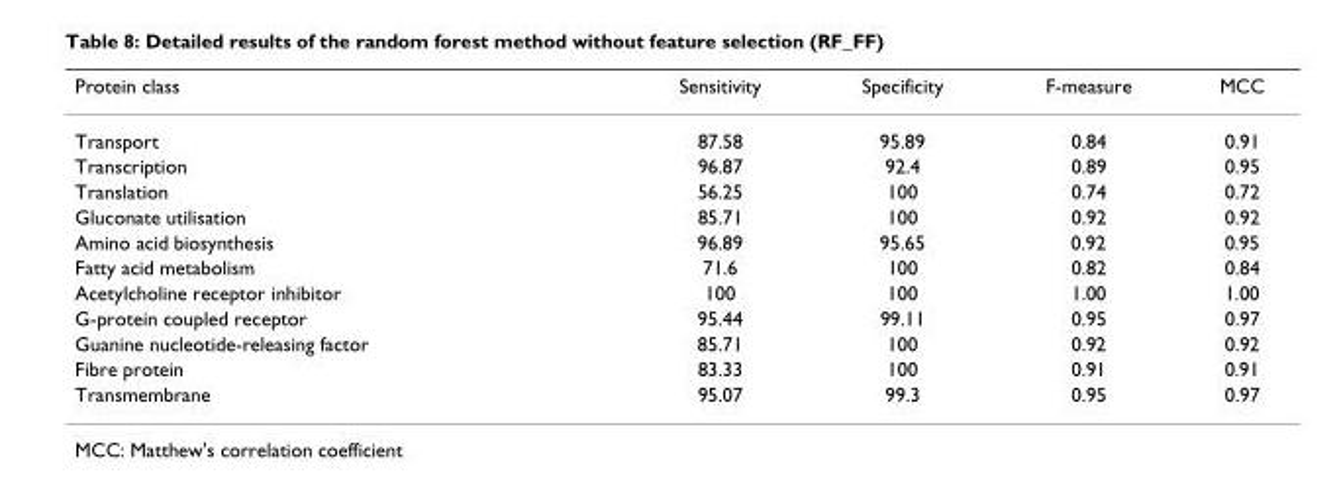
<table><thead><tr><td>Protein class</td><td>Sensitivity</td><td>Specificity</td><td>F-measure</td><td>MCC</td></tr></thead><tbody><tr><td>Transport</td><td>87.58</td><td>95.89</td><td>0.84</td><td>0.91</td></tr><tr><td>Transcription</td><td>96.87</td><td>92.4</td><td>0.89</td><td>0.95</td></tr><tr><td>Translation</td><td>56.25</td><td>100</td><td>0.74</td><td>0.72</td></tr><tr><td>Gluconate utilisation</td><td>85.71</td><td>100</td><td>0.92</td><td>0.92</td></tr><tr><td>Amino acid biosynthesis</td><td>96.89</td><td>95.65</td><td>0.92</td><td>0.95</td></tr><tr><td>Fatty acid metabolism</td><td>71.6</td><td>100</td><td>0.82</td><td>0.84</td></tr><tr><td>Acetylcholine receptor inhibitor</td><td>100</td><td>100</td><td>1.00</td><td>1.00</td></tr><tr><td>G-protein coupled receptor</td><td>95.44</td><td>99.11</td><td>0.95</td><td>0.97</td></tr><tr><td>Guanine nucleotide-releasing factor</td><td>85.71</td><td>100</td><td>0.92</td><td>0.92</td></tr><tr><td>Fibre protein</td><td>83.33</td><td>100</td><td>0.91</td><td>0.91</td></tr><tr><td>Transmembrane</td><td>95.07</td><td>99.3</td><td>0.95</td><td>0.97</td></tr></tbody></table>